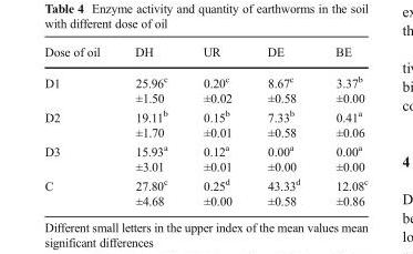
<table><thead><tr><td>Dose of oil</td><td>DH</td><td>UR</td><td>DE</td><td>BE</td></tr></thead><tbody><tr><td>D1</td><td>25.96<sup>c</sup> ±1.50</td><td>0.20<sup>c</sup> ±0.02</td><td>8.67<sup>c</sup> ±0.58</td><td>3.37<sup>b</sup> ±0.00</td></tr><tr><td>D2</td><td>19.11<sup>b</sup> ±1.70</td><td>0.15<sup>b</sup> ±0.01</td><td>7.33<sup>b</sup> ±0.58</td><td>0.41<sup>a</sup> ±0.06</td></tr><tr><td>D3</td><td>15.93<sup>a</sup> ±3.01</td><td>0.12<sup>a</sup> ±0.01</td><td>0.00<sup>a</sup> ±0.00</td><td>0.00<sup>a</sup> ±0.00</td></tr><tr><td>C</td><td>27.80<sup>c</sup> ±4.68</td><td>0.25<sup>d</sup> ±0.00</td><td>43.33<sup>d</sup> ±0.58</td><td>12.08<sup>c</sup> ±0.86</td></tr></tbody></table>